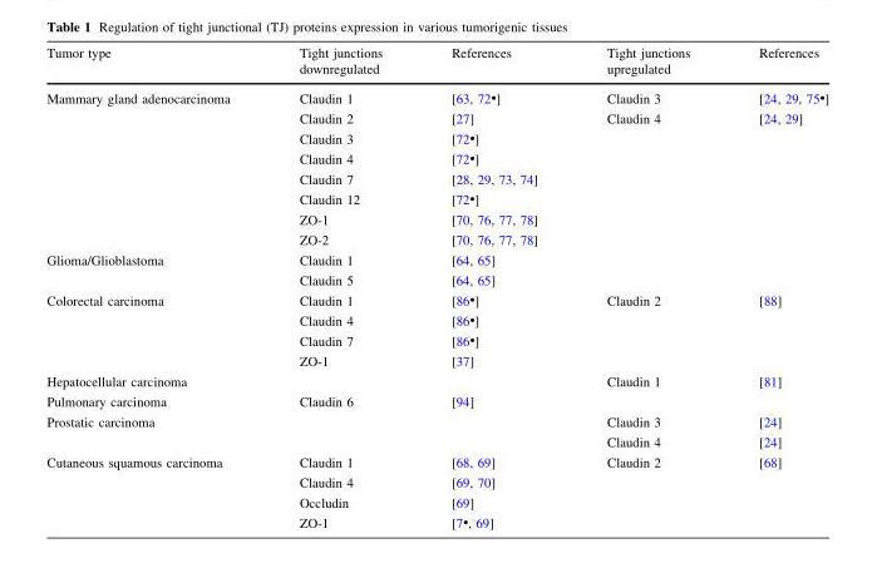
<table><thead><tr><td rowspan="2">Tumor type</td><td rowspan="2">Tight junctions downregulated</td><td rowspan="2">References</td><td rowspan="2">Tight junctions upregulated</td><td rowspan="2">References</td></tr><tr></tr></thead><tbody><tr><td rowspan="8">Mammary gland adenocarcinoma</td><td>Claudin 1</td><td>[63, 72•]</td><td>Claudin 3</td><td>[24, 29, 75•]</td></tr><tr><td>Claudin 2</td><td>[27]</td><td rowspan="7">Claudin 4</td><td rowspan="7">[24, 29]</td></tr><tr><td>Claudin 3</td><td>[72•]</td></tr><tr><td>Claudin 4</td><td>[72•]</td></tr><tr><td>Claudin 7</td><td>[28, 29, 73, 74]</td></tr><tr><td>Claudin 12</td><td>[72•]</td></tr><tr><td>ZO-1</td><td>[70, 76, 77, 78]</td></tr><tr><td>ZO-2</td><td>[70, 76, 77, 78]</td></tr><tr><td rowspan="2">Glioma/Glioblastoma</td><td>Claudin 1</td><td>[64, 65]</td><td rowspan="2" colspan="2"></td></tr><tr><td>Claudin 5</td><td>[64, 65]</td></tr><tr><td rowspan="4">Colorectal carcinoma</td><td>Claudin 1</td><td>[86•]</td><td rowspan="4">Claudin 2</td><td rowspan="4">[88]</td></tr><tr><td>Claudin 4</td><td>[86•]</td></tr><tr><td>Claudin 7</td><td>[86•]</td></tr><tr><td>ZO-1</td><td>[37]</td></tr><tr><td colspan="3">Hepatocellular carcinoma</td><td>Claudin 1</td><td>[81]</td></tr><tr><td>Pulmonary carcinoma</td><td>Claudin 6</td><td colspan="3">[94]</td></tr><tr><td rowspan="2" colspan="3">Prostatic carcinoma</td><td>Claudin 3</td><td>[24]</td></tr><tr><td>Claudin 4</td><td>[24]</td></tr><tr><td rowspan="4">Cutaneous squamous carcinoma</td><td>Claudin 1</td><td>[68, 69]</td><td rowspan="4">Claudin 2</td><td rowspan="4">[68]</td></tr><tr><td>Claudin 4</td><td>[69, 70]</td></tr><tr><td>Occludin</td><td>[69]</td></tr><tr><td>ZO-1</td><td>[7•, 69]</td></tr></tbody></table>